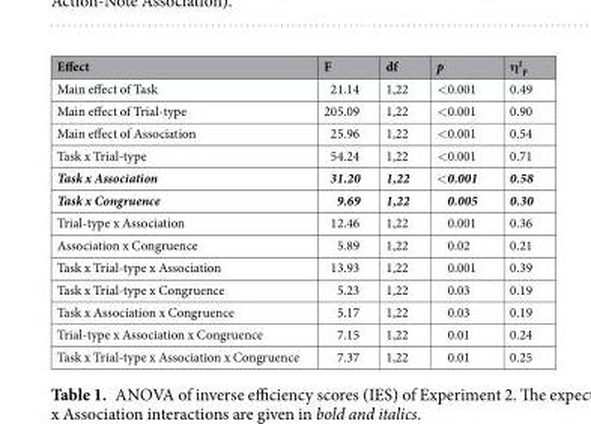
<table><thead><tr><td>Effect</td><td>F</td><td>df</td><td>p</td><td>η<sup>2</sup> <sub>p</sub></td></tr></thead><tbody><tr><td>Main effect of Task</td><td>21.14</td><td>1,22</td><td>&lt;0.001</td><td>0.49</td></tr><tr><td>Main effect of Trial-type</td><td>205.09</td><td>1,22</td><td>&lt;0.001</td><td>0.90</td></tr><tr><td>Main effect of Association</td><td>25.96</td><td>1,22</td><td>&lt;0.001</td><td>0.54</td></tr><tr><td>Task x Trial-type</td><td>54.24</td><td>1,22</td><td>&lt;0.001</td><td>0.71</td></tr><tr><td>Task x Association</td><td>31.20</td><td>1,22</td><td>&lt;0.001</td><td>0.58</td></tr><tr><td>Task x Congruence</td><td>9.69</td><td>1,22</td><td>0.005</td><td>0.30</td></tr><tr><td>Trial-type x Association</td><td>12.46</td><td>1,22</td><td>0.001</td><td>0.36</td></tr><tr><td>Association x Congruence</td><td>5.89</td><td>1,22</td><td>0.02</td><td>0.21</td></tr><tr><td>Task x Trial-type x Association</td><td>13.93</td><td>1,22</td><td>0.001</td><td>0.39</td></tr><tr><td>Task x Trial-type x Congruence</td><td>5.23</td><td>1,22</td><td>0.03</td><td>0.19</td></tr><tr><td>Task x Association x Congruence</td><td>5.17</td><td>1,22</td><td>0.03</td><td>0.19</td></tr><tr><td>Trial-type x Association x Congruence</td><td>7.15</td><td>1,22</td><td>0.01</td><td>0.24</td></tr><tr><td>Task x Trial-type x Association x Congruence</td><td>7.37</td><td>1,22</td><td>0.01</td><td>0.25</td></tr></tbody></table>